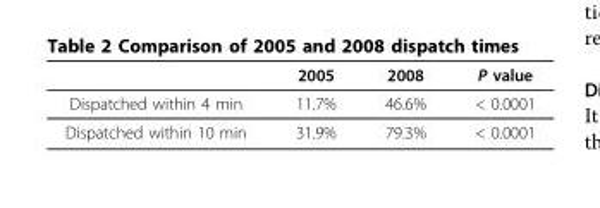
<table><thead><tr><td></td><td>2005</td><td>2008</td><td>P value</td></tr></thead><tbody><tr><td>Dispatched within 4 min</td><td>11.7%</td><td>46.6%</td><td>&lt; 0.0001</td></tr><tr><td>Dispatched within 10 min</td><td>31.9%</td><td>79.3%</td><td>&lt; 0.0001</td></tr></tbody></table>